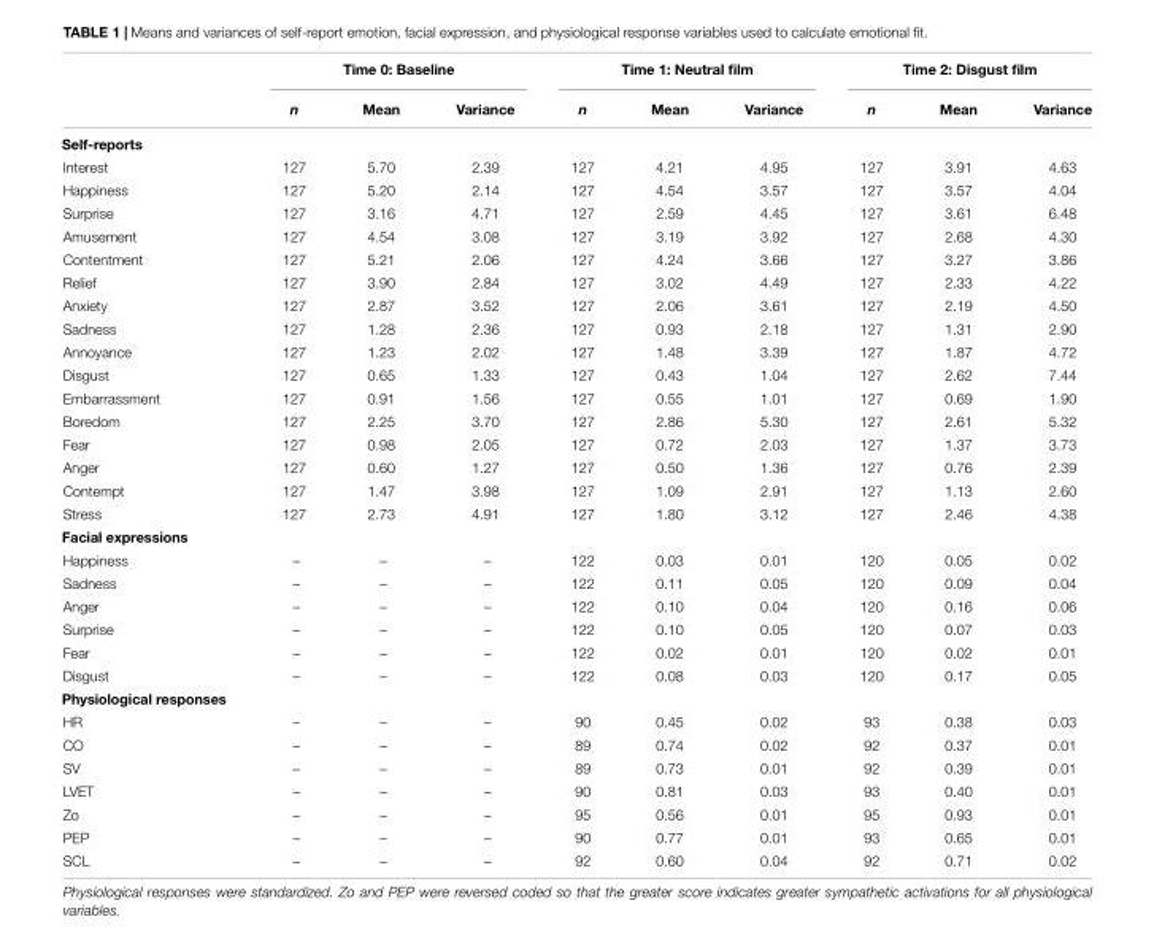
<table><thead><tr><td rowspan="2"></td><td colspan="3">Time 0: Baseline</td><td colspan="3">Time 1: Neutral film</td><td colspan="3">Time 2: Disgust film</td></tr><tr><td>n</td><td>Mean</td><td>Variance</td><td>n</td><td>Mean</td><td>Variance</td><td>n</td><td>Mean</td><td>Variance</td></tr></thead><tbody><tr><td colspan="10">Self-reports</td></tr><tr><td>Interest</td><td>127</td><td>5.70</td><td>2.39</td><td>127</td><td>4.21</td><td>4.95</td><td>127</td><td>3.91</td><td>4.63</td></tr><tr><td>Happiness</td><td>127</td><td>5.20</td><td>2.14</td><td>127</td><td>4.54</td><td>3.57</td><td>127</td><td>3.57</td><td>4.04</td></tr><tr><td>Surprise</td><td>127</td><td>3.16</td><td>4.71</td><td>127</td><td>2.59</td><td>4.45</td><td>127</td><td>3.61</td><td>6.48</td></tr><tr><td>Amusement</td><td>127</td><td>4.54</td><td>3.08</td><td>127</td><td>3.19</td><td>3.92</td><td>127</td><td>2.68</td><td>4.30</td></tr><tr><td>Contentment</td><td>127</td><td>5.21</td><td>2.06</td><td>127</td><td>4.24</td><td>3.66</td><td>127</td><td>3.27</td><td>3.86</td></tr><tr><td>Relief</td><td>127</td><td>3.90</td><td>2.84</td><td>127</td><td>3.02</td><td>4.49</td><td>127</td><td>2.33</td><td>4.22</td></tr><tr><td>Anxiety</td><td>127</td><td>2.87</td><td>3.52</td><td>127</td><td>2.06</td><td>3.61</td><td>127</td><td>2.19</td><td>4.50</td></tr><tr><td>Sadness</td><td>127</td><td>1.28</td><td>2.36</td><td>127</td><td>0.93</td><td>2.18</td><td>127</td><td>1.31</td><td>2.90</td></tr><tr><td>Annoyance</td><td>127</td><td>1.23</td><td>2.02</td><td>127</td><td>1.48</td><td>3.39</td><td>127</td><td>1.87</td><td>4.72</td></tr><tr><td>Disgust</td><td>127</td><td>0.65</td><td>1.33</td><td>127</td><td>0.43</td><td>1.04</td><td>127</td><td>2.62</td><td>7.44</td></tr><tr><td>Embarrassment</td><td>127</td><td>0.91</td><td>1.56</td><td>127</td><td>0.55</td><td>1.01</td><td>127</td><td>0.69</td><td>1.90</td></tr><tr><td>Boredom</td><td>127</td><td>2.25</td><td>3.70</td><td>127</td><td>2.86</td><td>5.30</td><td>127</td><td>2.61</td><td>5.32</td></tr><tr><td>Fear</td><td>127</td><td>0.98</td><td>2.05</td><td>127</td><td>0.72</td><td>2.03</td><td>127</td><td>1.37</td><td>3.73</td></tr><tr><td>Anger</td><td>127</td><td>0.60</td><td>1.27</td><td>127</td><td>0.50</td><td>1.36</td><td>127</td><td>0.76</td><td>2.39</td></tr><tr><td>Contempt</td><td>127</td><td>1.47</td><td>3.98</td><td>127</td><td>1.09</td><td>2.91</td><td>127</td><td>1.13</td><td>2.60</td></tr><tr><td>Stress</td><td>127</td><td>2.73</td><td>4.91</td><td>127</td><td>1.80</td><td>3.12</td><td>127</td><td>2.46</td><td>4.38</td></tr><tr><td colspan="10">Facial expressions</td></tr><tr><td>Happiness</td><td>–</td><td>–</td><td>–</td><td>122</td><td>0.03</td><td>0.01</td><td>120</td><td>0.05</td><td>0.02</td></tr><tr><td>Sadness</td><td>–</td><td>–</td><td>–</td><td>122</td><td>0.11</td><td>0.05</td><td>120</td><td>0.09</td><td>0.04</td></tr><tr><td>Anger</td><td>–</td><td>–</td><td>–</td><td>122</td><td>0.10</td><td>0.04</td><td>120</td><td>0.16</td><td>0.06</td></tr><tr><td>Surprise</td><td>–</td><td>–</td><td>–</td><td>122</td><td>0.10</td><td>0.05</td><td>120</td><td>0.07</td><td>0.03</td></tr><tr><td>Fear</td><td>–</td><td>–</td><td>–</td><td>122</td><td>0.02</td><td>0.01</td><td>120</td><td>0.02</td><td>0.01</td></tr><tr><td>Disgust</td><td>–</td><td>–</td><td>–</td><td>122</td><td>0.08</td><td>0.03</td><td>120</td><td>0.17</td><td>0.05</td></tr><tr><td colspan="10">Physiological responses</td></tr><tr><td>HR</td><td>–</td><td>–</td><td>–</td><td>90</td><td>0.45</td><td>0.02</td><td>93</td><td>0.38</td><td>0.03</td></tr><tr><td>CO</td><td>–</td><td>–</td><td>–</td><td>89</td><td>0.74</td><td>0.02</td><td>92</td><td>0.37</td><td>0.01</td></tr><tr><td>SV</td><td>–</td><td>–</td><td>–</td><td>89</td><td>0.73</td><td>0.01</td><td>92</td><td>0.39</td><td>0.01</td></tr><tr><td>LVET</td><td>–</td><td>–</td><td>–</td><td>90</td><td>0.81</td><td>0.03</td><td>93</td><td>0.40</td><td>0.01</td></tr><tr><td>Zo</td><td>–</td><td>–</td><td>–</td><td>95</td><td>0.56</td><td>0.01</td><td>95</td><td>0.93</td><td>0.01</td></tr><tr><td>PEP</td><td>–</td><td>–</td><td>–</td><td>90</td><td>0.77</td><td>0.01</td><td>93</td><td>0.65</td><td>0.01</td></tr><tr><td>SCL</td><td>–</td><td>–</td><td>–</td><td>92</td><td>0.60</td><td>0.04</td><td>92</td><td>0.71</td><td>0.02</td></tr></tbody></table>